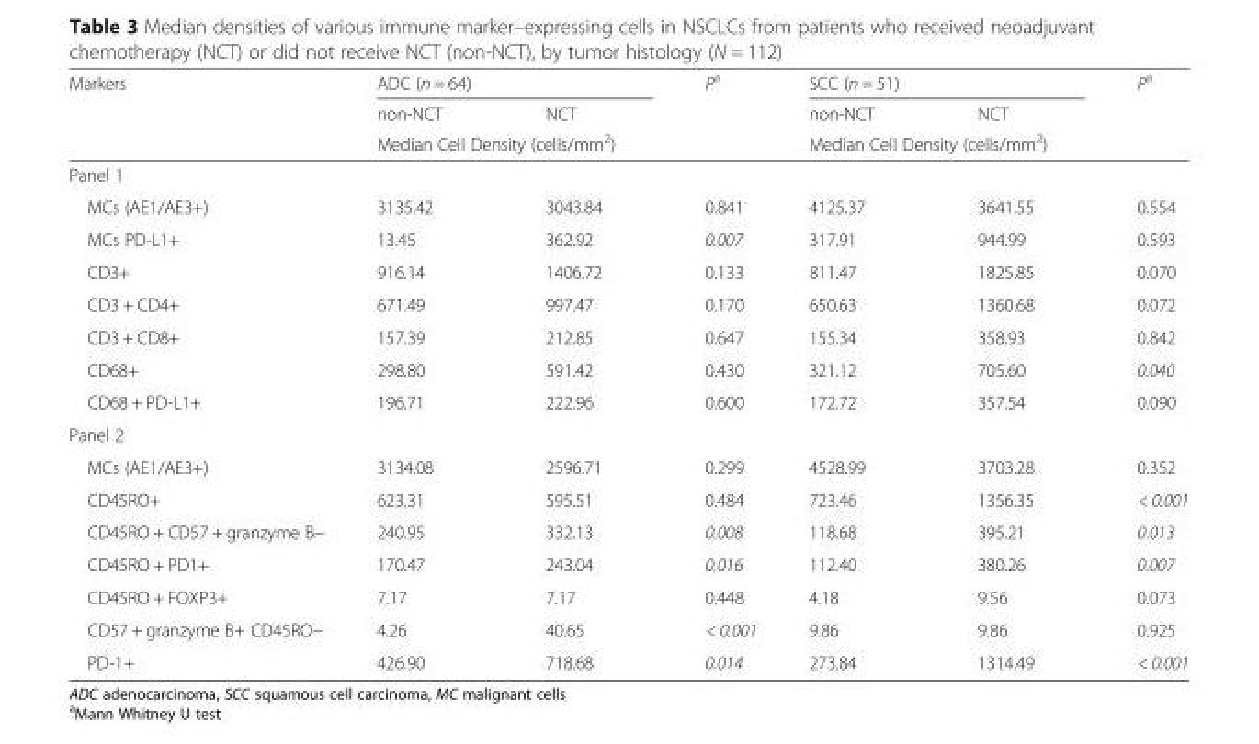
<table><thead><tr><td rowspan="3">Markers</td><td colspan="2">ADC (n = 64)</td><td rowspan="3">P<sup>a</sup></td><td colspan="2">SCC (n = 51)</td><td rowspan="3">P<sup>a</sup></td></tr><tr><td>non-NCT</td><td>NCT</td><td>non-NCT</td><td>NCT</td></tr><tr><td colspan="2">Median Cell Density (cells/mm<sup>2</sup>)</td><td colspan="2">Median Cell Density (cells/mm<sup>2</sup>)</td></tr></thead><tbody><tr><td colspan="7">Panel 1</td></tr><tr><td>MCs (AE1/AE3+)</td><td>3135.42</td><td>3043.84</td><td>0.841</td><td>4125.37</td><td>3641.55</td><td>0.554</td></tr><tr><td>MCs PD-L1+</td><td>13.45</td><td>362.92</td><td>0.007</td><td>317.91</td><td>944.99</td><td>0.593</td></tr><tr><td>CD3+</td><td>916.14</td><td>1406.72</td><td>0.133</td><td>811.47</td><td>1825.85</td><td>0.070</td></tr><tr><td>CD3 + CD4+</td><td>671.49</td><td>997.47</td><td>0.170</td><td>650.63</td><td>1360.68</td><td>0.072</td></tr><tr><td>CD3 + CD8+</td><td>157.39</td><td>212.85</td><td>0.647</td><td>155.34</td><td>358.93</td><td>0.842</td></tr><tr><td>CD68+</td><td>298.80</td><td>591.42</td><td>0.430</td><td>321.12</td><td>705.60</td><td>0.040</td></tr><tr><td>CD68 + PD-L1+</td><td>196.71</td><td>222.96</td><td>0.600</td><td>172.72</td><td>357.54</td><td>0.090</td></tr><tr><td colspan="7">Panel 2</td></tr><tr><td>MCs (AE1/AE3+)</td><td>3134.08</td><td>2596.71</td><td>0.299</td><td>4528.99</td><td>3703.28</td><td>0.352</td></tr><tr><td>CD45RO+</td><td>623.31</td><td>595.51</td><td>0.484</td><td>723.46</td><td>1356.35</td><td>&lt; 0.001</td></tr><tr><td>CD45RO + CD57 + granzyme B−</td><td>240.95</td><td>332.13</td><td>0.008</td><td>118.68</td><td>395.21</td><td>0.013</td></tr><tr><td>CD45RO + PD1+</td><td>170.47</td><td>243.04</td><td>0.016</td><td>112.40</td><td>380.26</td><td>0.007</td></tr><tr><td>CD45RO + FOXP3+</td><td>7.17</td><td>7.17</td><td>0.448</td><td>4.18</td><td>9.56</td><td>0.073</td></tr><tr><td>CD57 + granzyme B+ CD45RO−</td><td>4.26</td><td>40.65</td><td>&lt; 0.001</td><td>9.86</td><td>9.86</td><td>0.925</td></tr><tr><td>PD-1+</td><td>426.90</td><td>718.68</td><td>0.014</td><td>273.84</td><td>1314.49</td><td>&lt; 0.001</td></tr></tbody></table>